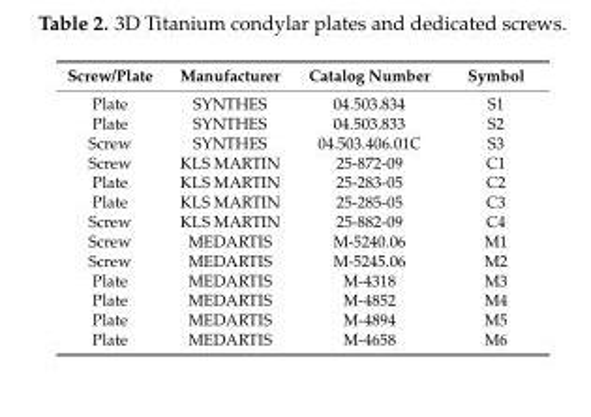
<table><thead><tr><td>Screw/Plate</td><td>Manufacturer</td><td>Catalog Number</td><td>Symbol</td></tr></thead><tbody><tr><td>Plate</td><td>SYNTHES</td><td>04.503.834</td><td>S1</td></tr><tr><td>Plate</td><td>SYNTHES</td><td>04.503.833</td><td>S2</td></tr><tr><td>Screw</td><td>SYNTHES</td><td>04.503.406.01C</td><td>S3</td></tr><tr><td>Screw</td><td>KLS MARTIN</td><td>25-872-09</td><td>C1</td></tr><tr><td>Plate</td><td>KLS MARTIN</td><td>25-283-05</td><td>C2</td></tr><tr><td>Plate</td><td>KLS MARTIN</td><td>25-285-05</td><td>C3</td></tr><tr><td>Screw</td><td>KLS MARTIN</td><td>25-882-09</td><td>C4</td></tr><tr><td>Screw</td><td>MEDARTIS</td><td>M-5240.06</td><td>M1</td></tr><tr><td>Screw</td><td>MEDARTIS</td><td>M-5245.06</td><td>M2</td></tr><tr><td>Plate</td><td>MEDARTIS</td><td>M-4318</td><td>M3</td></tr><tr><td>Plate</td><td>MEDARTIS</td><td>M-4852</td><td>M4</td></tr><tr><td>Plate</td><td>MEDARTIS</td><td>M-4894</td><td>M5</td></tr><tr><td>Plate</td><td>MEDARTIS</td><td>M-4658</td><td>M6</td></tr></tbody></table>